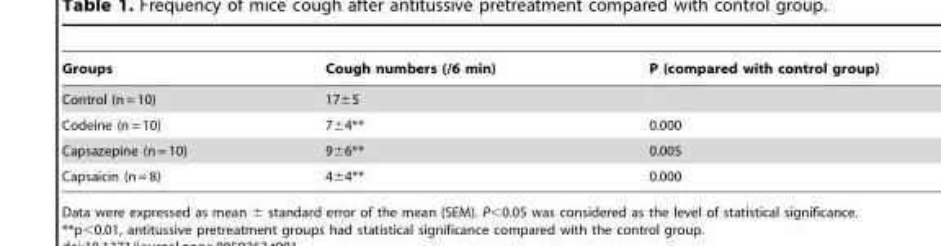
<table><thead><tr><td>Groups</td><td>Cough numbers (/6 min)</td><td>P (compared with control group)</td></tr></thead><tbody><tr><td>Control (n = 10)</td><td>17±5</td><td></td></tr><tr><td>Codeine (n = 10)</td><td>7±4**</td><td>0.000</td></tr><tr><td>Capsazepine (n = 10)</td><td>9±6**</td><td>0.005</td></tr><tr><td>Capsaicin (n = 8)</td><td>4±4**</td><td>0.000</td></tr></tbody></table>